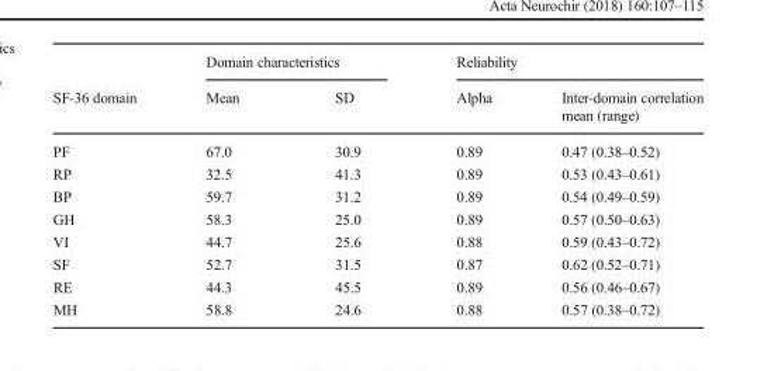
<table><thead><tr><td rowspan="2">SF-36 domain</td><td colspan="2">Domain characteristics</td><td colspan="2">Reliability</td></tr><tr><td>Mean</td><td>SD</td><td>Alpha</td><td>Inter-domain correlation mean (range)</td></tr></thead><tbody><tr><td>PF</td><td>67.0</td><td>30.9</td><td>0.89</td><td>0.47 (0.38–0.52)</td></tr><tr><td>RP</td><td>32.5</td><td>41.3</td><td>0.89</td><td>0.53 (0.43–0.61)</td></tr><tr><td>BP</td><td>59.7</td><td>31.2</td><td>0.89</td><td>0.54 (0.49–0.59)</td></tr><tr><td>GH</td><td>58.3</td><td>25.0</td><td>0.89</td><td>0.57 (0.50–0.63)</td></tr><tr><td>VI</td><td>44.7</td><td>25.6</td><td>0.88</td><td>0.59 (0.43–0.72)</td></tr><tr><td>SF</td><td>52.7</td><td>31.5</td><td>0.87</td><td>0.62 (0.52–0.71)</td></tr><tr><td>RE</td><td>44.3</td><td>45.5</td><td>0.89</td><td>0.56 (0.46–0.67)</td></tr><tr><td>MH</td><td>58.8</td><td>24.6</td><td>0.88</td><td>0.57 (0.38–0.72)</td></tr></tbody></table>